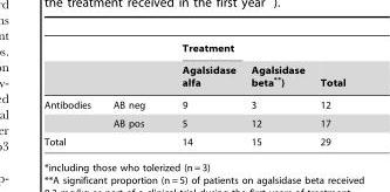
<table><thead><tr><td rowspan="2"></td><td rowspan="2"></td><td rowspan="2">Treatment Agalsidase alfa</td><td rowspan="2">Agalsidase beta**)</td><td rowspan="2">Total</td></tr><tr></tr></thead><tbody><tr><td rowspan="2">Antibodies</td><td>AB neg</td><td>9</td><td>3</td><td>12</td></tr><tr><td>AB pos</td><td>5</td><td>12</td><td>17</td></tr><tr><td>Total</td><td></td><td>14</td><td>15</td><td>29</td></tr></tbody></table>